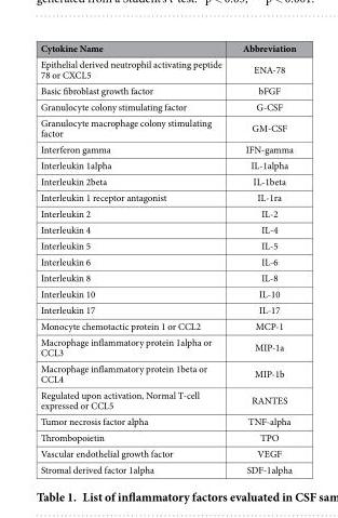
<table><thead><tr><td>Cytokine Name</td><td>Abbreviation</td></tr></thead><tbody><tr><td>Epithelial derived neutrophil activating peptide 78 or CXCL5</td><td>ENA-78</td></tr><tr><td>Basic fibroblast growth factor</td><td>bFGF</td></tr><tr><td>Granulocyte colony stimulating factor</td><td>G-CSF</td></tr><tr><td>Granulocyte macrophage colony stimulating factor</td><td>GM-CSF</td></tr><tr><td>Interferon gamma</td><td>IFN-gamma</td></tr><tr><td>Interleukin 1alpha</td><td>IL-1alpha</td></tr><tr><td>Interleukin 2beta</td><td>IL-1beta</td></tr><tr><td>Interleukin 1 receptor antagonist</td><td>IL-1ra</td></tr><tr><td>Interleukin 2</td><td>IL-2</td></tr><tr><td>Interleukin 4</td><td>IL-4</td></tr><tr><td>Interleukin 5</td><td>IL-5</td></tr><tr><td>Interleukin 6</td><td>IL-6</td></tr><tr><td>Interleukin 8</td><td>IL-8</td></tr><tr><td>Interleukin 10</td><td>IL-10</td></tr><tr><td>Interleukin 17</td><td>IL-17</td></tr><tr><td>Monocyte chemotactic protein 1 or CCL2</td><td>MCP-1</td></tr><tr><td>Macrophage inflammatory protein 1alpha or CCL3</td><td>MIP-1a</td></tr><tr><td>Macrophage inflammatory protein 1beta or CCL4</td><td>MIP-1b</td></tr><tr><td>Regulated upon activation, Normal T-cell expressed or CCL5</td><td>RANTES</td></tr><tr><td>Tumor necrosis factor alpha</td><td>TNF-alpha</td></tr><tr><td>Thrombopoietin</td><td>TPO</td></tr><tr><td>Vascular endothelial growth factor</td><td>VEGF</td></tr><tr><td>Stromal derived factor 1alpha</td><td>SDF-1alpha</td></tr></tbody></table>